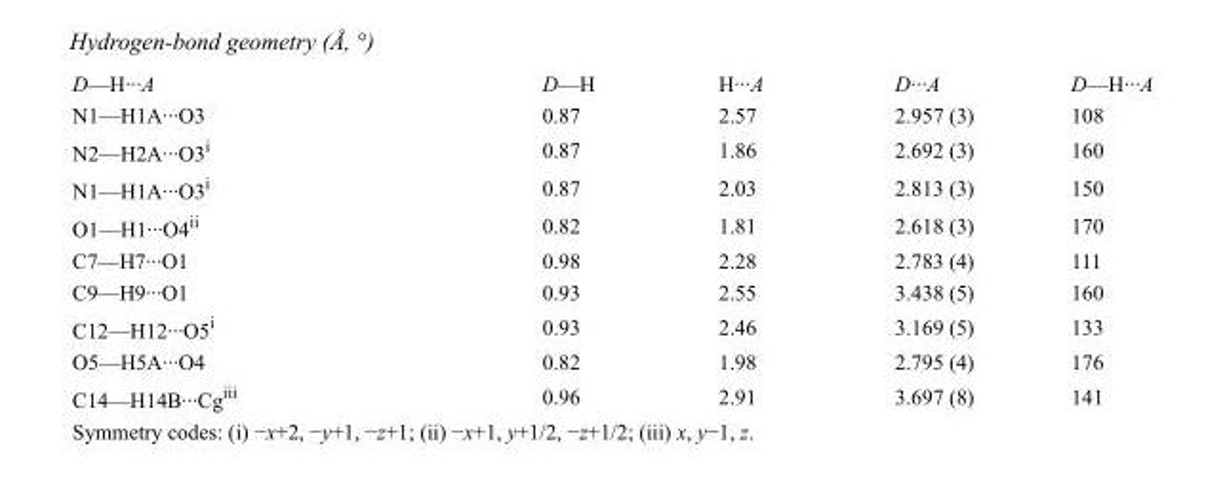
<table><tbody><tr><td>D—H···A</td><td>D—H</td><td>H···A</td><td>D···A</td><td>D—H···A</td></tr><tr><td>N1—H1A···O3</td><td>0.87</td><td>2.57</td><td>2.957 (3)</td><td>108</td></tr><tr><td>N2—H2A···O3<sup>i</sup></td><td>0.87</td><td>1.86</td><td>2.692 (3)</td><td>160</td></tr><tr><td>N1—H1A···O3<sup>i</sup></td><td>0.87</td><td>2.03</td><td>2.813 (3)</td><td>150</td></tr><tr><td>O1—H1···O4<sup>ii</sup></td><td>0.82</td><td>1.81</td><td>2.618 (3)</td><td>170</td></tr><tr><td>C7—H7···O1</td><td>0.98</td><td>2.28</td><td>2.783 (4)</td><td>111</td></tr><tr><td>C9—H9···O1</td><td>0.93</td><td>2.55</td><td>3.438 (5)</td><td>160</td></tr><tr><td>C12—H12···O5<sup>i</sup></td><td>0.93</td><td>2.46</td><td>3.169 (5)</td><td>133</td></tr><tr><td>O5—H5A···O4</td><td>0.82</td><td>1.98</td><td>2.795 (4)</td><td>176</td></tr><tr><td>C14—H14B···Cg<sup>iii</sup></td><td>0.96</td><td>2.91</td><td>3.697 (8)</td><td>141</td></tr></tbody></table>